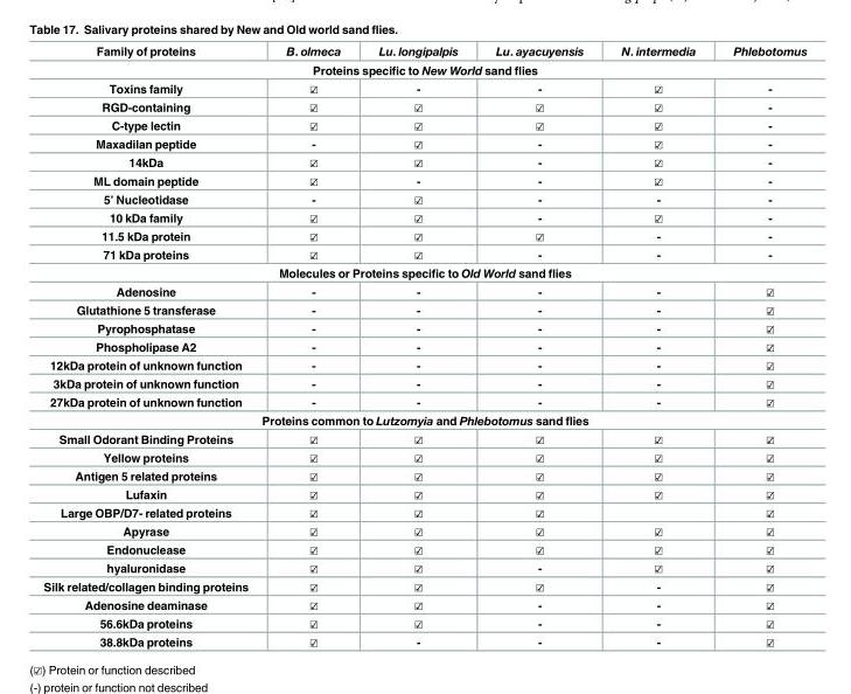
<table><thead><tr><td>Family of proteins</td><td>B. olmeca</td><td>Lu. longipalpis</td><td>Lu. ayacuyensis</td><td>N. intermedia</td><td>Phlebotomus</td></tr></thead><tbody><tr><td colspan="6">Proteins specific to New World sand flies</td></tr><tr><td>Toxins family</td><td>☑</td><td>-</td><td>-</td><td>☑</td><td>-</td></tr><tr><td>RGD-containing</td><td>☑</td><td>☑</td><td>☑</td><td>☑</td><td>-</td></tr><tr><td>C-type lectin</td><td>☑</td><td>☑</td><td>☑</td><td>☑</td><td>-</td></tr><tr><td>Maxadilan peptide</td><td>-</td><td>☑</td><td>-</td><td>☑</td><td>-</td></tr><tr><td>14kDa</td><td>☑</td><td>☑</td><td>-</td><td>☑</td><td>-</td></tr><tr><td>ML domain peptide</td><td>☑</td><td>-</td><td>-</td><td>☑</td><td>-</td></tr><tr><td>5’ Nucleotidase</td><td>-</td><td>☑</td><td>-</td><td>-</td><td>-</td></tr><tr><td>10 kDa family</td><td>☑</td><td>☑</td><td>-</td><td>☑</td><td>-</td></tr><tr><td>11.5 kDa protein</td><td>☑</td><td>☑</td><td>☑</td><td>-</td><td>-</td></tr><tr><td>71 kDa proteins</td><td>☑</td><td>☑</td><td>-</td><td>-</td><td>-</td></tr><tr><td colspan="6">Molecules or Proteins specific to Old World sand flies</td></tr><tr><td>Adenosine</td><td>-</td><td>-</td><td>-</td><td>-</td><td>☑</td></tr><tr><td>Glutathione 5 transferase</td><td>-</td><td>-</td><td>-</td><td>-</td><td>☑</td></tr><tr><td>Pyrophosphatase</td><td>-</td><td>-</td><td>-</td><td>-</td><td>☑</td></tr><tr><td>Phospholipase A2</td><td>-</td><td>-</td><td>-</td><td>-</td><td>☑</td></tr><tr><td>12kDa protein of unknown function</td><td>-</td><td>-</td><td>-</td><td>-</td><td>☑</td></tr><tr><td>3kDa protein of unknown function</td><td>-</td><td>-</td><td>-</td><td>-</td><td>☑</td></tr><tr><td>27kDa protein of unknown function</td><td>-</td><td>-</td><td>-</td><td>-</td><td>☑</td></tr><tr><td colspan="6">Proteins common to Lutzomyia and Phlebotomus sand flies</td></tr><tr><td>Small Odorant Binding Proteins</td><td>☑</td><td>☑</td><td>☑</td><td>☑</td><td>☑</td></tr><tr><td>Yellow proteins</td><td>☑</td><td>☑</td><td>☑</td><td>☑</td><td>☑</td></tr><tr><td>Antigen 5 related proteins</td><td>☑</td><td>☑</td><td>☑</td><td>☑</td><td>☑</td></tr><tr><td>Lufaxin</td><td>☑</td><td>☑</td><td>☑</td><td>☑</td><td>☑</td></tr><tr><td>Large OBP/D7- related proteins</td><td>☑</td><td>☑</td><td>☑</td><td></td><td>☑</td></tr><tr><td>Apyrase</td><td>☑</td><td>☑</td><td>☑</td><td>☑</td><td>☑</td></tr><tr><td>Endonuclease</td><td>☑</td><td>☑</td><td>☑</td><td>☑</td><td>☑</td></tr><tr><td>hyaluronidase</td><td>☑</td><td>☑</td><td>-</td><td>☑</td><td>☑</td></tr><tr><td>Silk related/collagen binding proteins</td><td>☑</td><td>☑</td><td>☑</td><td>-</td><td>☑</td></tr><tr><td>Adenosine deaminase</td><td>☑</td><td>☑</td><td>-</td><td>-</td><td>☑</td></tr><tr><td>56.6kDa proteins</td><td>☑</td><td>☑</td><td>-</td><td>-</td><td>☑</td></tr><tr><td>38.8kDa proteins</td><td>☑</td><td>-</td><td>-</td><td>-</td><td>☑</td></tr></tbody></table>